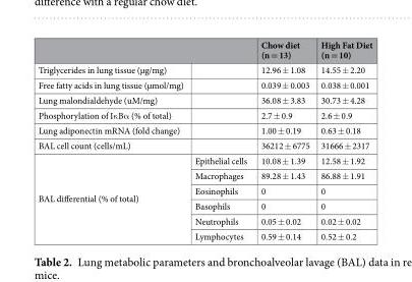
<table><thead><tr><td></td><td></td><td>Chow diet (n = 13)</td><td>High Fat Diet (n = 10)</td></tr></thead><tbody><tr><td>Triglycerides in lung tissue (µg/mg)</td><td></td><td>12.96 ± 1.08</td><td>14.55 ± 2.20</td></tr><tr><td>Free fatty acids in lung tissue (µmol/mg)</td><td></td><td>0.039 ± 0.003</td><td>0.038 ± 0.001</td></tr><tr><td>Lung malondialdehyde (uM/mg)</td><td></td><td>36.08 ± 3.83</td><td>30.73 ± 4.28</td></tr><tr><td>Phosphorylation of IκBα (% of total)</td><td></td><td>2.7 ± 0.9</td><td>2.6 ± 0.9</td></tr><tr><td>Lung adiponectin mRNA (fold change)</td><td></td><td>1.00 ± 0.19</td><td>0.63 ± 0.18</td></tr><tr><td>BAL cell count (cells/mL)</td><td></td><td>36212 ± 6775</td><td>31666 ± 2317</td></tr><tr><td rowspan="6">BAL differential (% of total)</td><td>Epithelial cells</td><td>10.08 ± 1.39</td><td>12.58 ± 1.92</td></tr><tr><td>Macrophages</td><td>89.28 ± 1.43</td><td>86.88 ± 1.91</td></tr><tr><td>Eosinophils</td><td>0</td><td>0</td></tr><tr><td>Basophils</td><td>0</td><td>0</td></tr><tr><td>Neutrophils</td><td>0.05 ± 0.02</td><td>0.02 ± 0.02</td></tr><tr><td>Lymphocytes</td><td>0.59 ± 0.14</td><td>0.52 ± 0.2</td></tr></tbody></table>